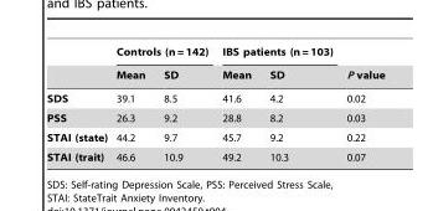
<table><thead><tr><td rowspan="2"></td><td colspan="2">Controls (n = 142)</td><td colspan="2">IBS patients (n = 103)</td><td rowspan="2">P value</td></tr><tr><td>Mean</td><td>SD</td><td>Mean</td><td>SD</td></tr></thead><tbody><tr><td>SDS</td><td>39.1</td><td>8.5</td><td>41.6</td><td>4.2</td><td>0.02</td></tr><tr><td>PSS</td><td>26.3</td><td>9.2</td><td>28.8</td><td>8.2</td><td>0.03</td></tr><tr><td>STAI (state)</td><td>44.2</td><td>9.7</td><td>45.7</td><td>9.2</td><td>0.22</td></tr><tr><td>STAI (trait)</td><td>46.6</td><td>10.9</td><td>49.2</td><td>10.3</td><td>0.07</td></tr></tbody></table>